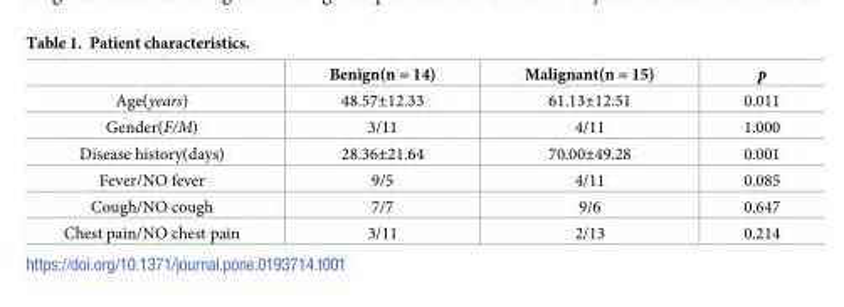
<table><thead><tr><td></td><td>Benign(n = 14)</td><td>Malignant(n = 15)</td><td>p</td></tr></thead><tbody><tr><td>Age(years)</td><td>48.57±12.33</td><td>61.13±12.51</td><td>0.011</td></tr><tr><td>Gender(F/M)</td><td>3/11</td><td>4/11</td><td>1.000</td></tr><tr><td>Disease history(days)</td><td>28.36±21.64</td><td>70.00±49.28</td><td>0.001</td></tr><tr><td>Fever/NO fever</td><td>9/5</td><td>4/11</td><td>0.085</td></tr><tr><td>Cough/NO cough</td><td>7/7</td><td>9/6</td><td>0.647</td></tr><tr><td>Chest pain/NO chest pain</td><td>3/11</td><td>2/13</td><td>0.214</td></tr></tbody></table>